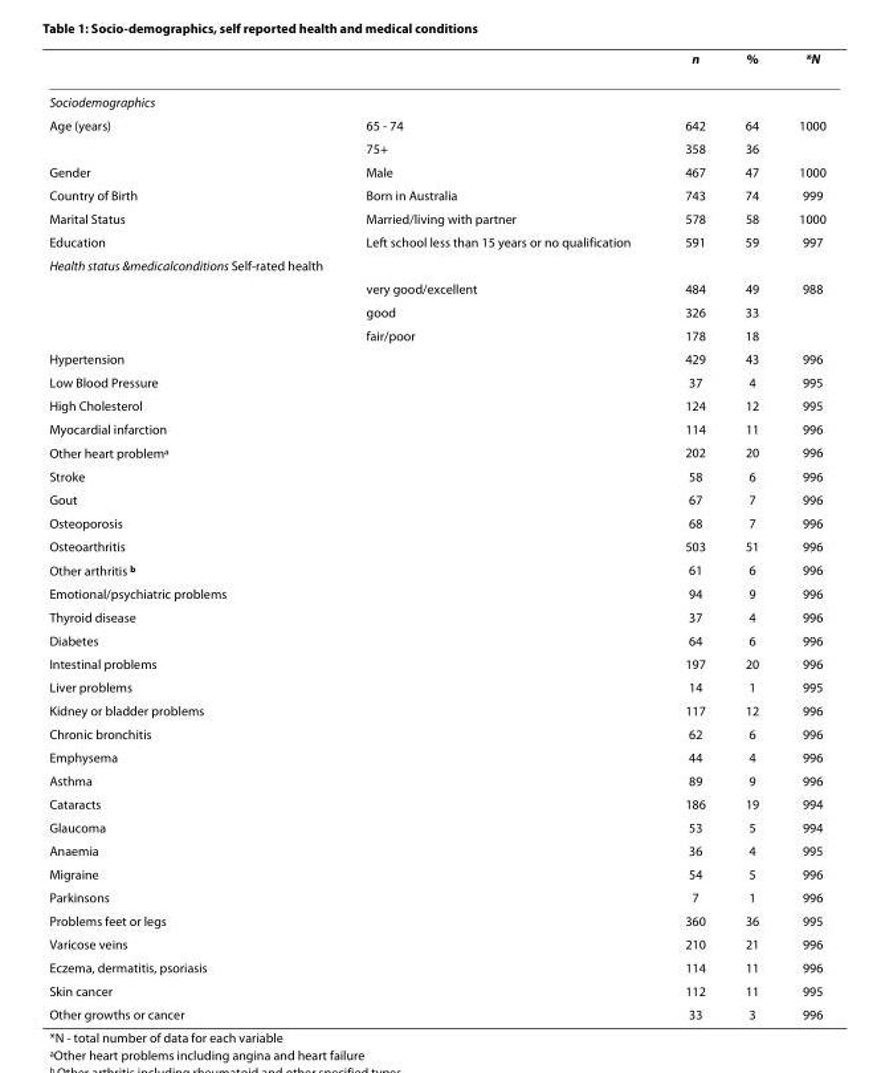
<table><thead><tr><td></td><td></td><td>n</td><td>%</td><td>*N</td></tr></thead><tbody><tr><td colspan="5">Sociodemographics</td></tr><tr><td rowspan="2">Age (years)</td><td>65 - 74</td><td>642</td><td>64</td><td>1000</td></tr><tr><td>75+</td><td>358</td><td>36</td><td></td></tr><tr><td>Gender</td><td>Male</td><td>467</td><td>47</td><td>1000</td></tr><tr><td>Country of Birth</td><td>Born in Australia</td><td>743</td><td>74</td><td>999</td></tr><tr><td>Marital Status</td><td>Married/living with partner</td><td>578</td><td>58</td><td>1000</td></tr><tr><td>Education</td><td>Left school less than 15 years or no qualification</td><td>591</td><td>59</td><td>997</td></tr><tr><td colspan="5">Health status &amp;medicalconditions Self-rated health</td></tr><tr><td></td><td>very good/excellent</td><td>484</td><td>49</td><td>988</td></tr><tr><td></td><td>good</td><td>326</td><td>33</td><td></td></tr><tr><td></td><td>fair/poor</td><td>178</td><td>18</td><td></td></tr><tr><td>Hypertension</td><td></td><td>429</td><td>43</td><td>996</td></tr><tr><td>Low Blood Pressure</td><td></td><td>37</td><td>4</td><td>995</td></tr><tr><td>High Cholesterol</td><td></td><td>124</td><td>12</td><td>995</td></tr><tr><td>Myocardial infarction</td><td></td><td>114</td><td>11</td><td>996</td></tr><tr><td>Other heart problem<sup>a</sup></td><td></td><td>202</td><td>20</td><td>996</td></tr><tr><td>Stroke</td><td></td><td>58</td><td>6</td><td>996</td></tr><tr><td>Gout</td><td></td><td>67</td><td>7</td><td>996</td></tr><tr><td>Osteoporosis</td><td></td><td>68</td><td>7</td><td>996</td></tr><tr><td>Osteoarthritis</td><td></td><td>503</td><td>51</td><td>996</td></tr><tr><td>Other arthritis <sup>b</sup></td><td></td><td>61</td><td>6</td><td>996</td></tr><tr><td>Emotional/psychiatric problems</td><td></td><td>94</td><td>9</td><td>996</td></tr><tr><td>Thyroid disease</td><td></td><td>37</td><td>4</td><td>996</td></tr><tr><td>Diabetes</td><td></td><td>64</td><td>6</td><td>996</td></tr><tr><td>Intestinal problems</td><td></td><td>197</td><td>20</td><td>996</td></tr><tr><td>Liver problems</td><td></td><td>14</td><td>1</td><td>995</td></tr><tr><td>Kidney or bladder problems</td><td></td><td>117</td><td>12</td><td>996</td></tr><tr><td>Chronic bronchitis</td><td></td><td>62</td><td>6</td><td>996</td></tr><tr><td>Emphysema</td><td></td><td>44</td><td>4</td><td>996</td></tr><tr><td>Asthma</td><td></td><td>89</td><td>9</td><td>996</td></tr><tr><td>Cataracts</td><td></td><td>186</td><td>19</td><td>994</td></tr><tr><td>Glaucoma</td><td></td><td>53</td><td>5</td><td>994</td></tr><tr><td>Anaemia</td><td></td><td>36</td><td>4</td><td>995</td></tr><tr><td>Migraine</td><td></td><td>54</td><td>5</td><td>996</td></tr><tr><td>Parkinsons</td><td></td><td>7</td><td>1</td><td>996</td></tr><tr><td>Problems feet or legs</td><td></td><td>360</td><td>36</td><td>995</td></tr><tr><td>Varicose veins</td><td></td><td>210</td><td>21</td><td>996</td></tr><tr><td>Eczema, dermatitis, psoriasis</td><td></td><td>114</td><td>11</td><td>996</td></tr><tr><td>Skin cancer</td><td></td><td>112</td><td>11</td><td>995</td></tr><tr><td>Other growths or cancer</td><td></td><td>33</td><td>3</td><td>996</td></tr></tbody></table>